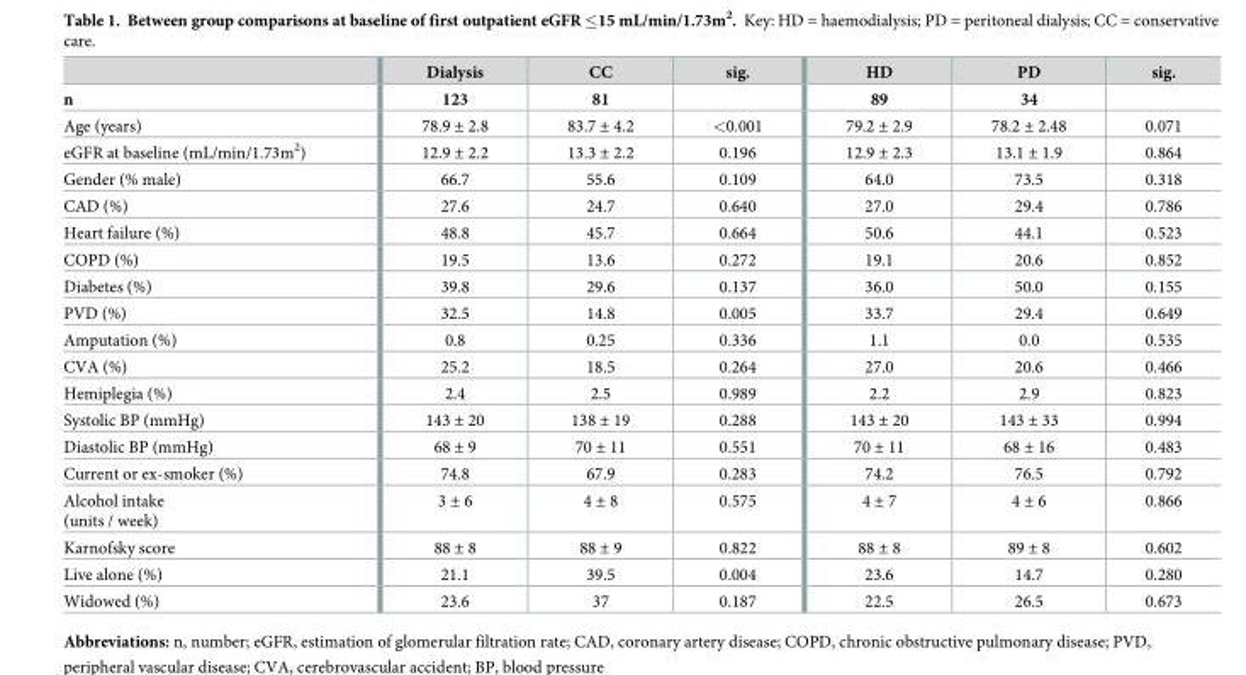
<table><thead><tr><td rowspan="2">n</td><td rowspan="2">Dialysis 123</td><td rowspan="2">CC 81</td><td rowspan="2">sig.</td><td rowspan="2">HD 89</td><td rowspan="2">PD 34</td><td rowspan="2">sig.</td></tr><tr></tr></thead><tbody><tr><td>Age (years)</td><td>78.9 ± 2.8</td><td>83.7 ± 4.2</td><td>&lt;0.001</td><td>79.2 ± 2.9</td><td>78.2 ± 2.48</td><td>0.071</td></tr><tr><td>eGFR at baseline (mL/min/1.73m<sup>2</sup>)</td><td>12.9 ± 2.2</td><td>13.3 ± 2.2</td><td>0.196</td><td>12.9 ± 2.3</td><td>13.1 ± 1.9</td><td>0.864</td></tr><tr><td>Gender (% male)</td><td>66.7</td><td>55.6</td><td>0.109</td><td>64.0</td><td>73.5</td><td>0.318</td></tr><tr><td>CAD (%)</td><td>27.6</td><td>24.7</td><td>0.640</td><td>27.0</td><td>29.4</td><td>0.786</td></tr><tr><td>Heart failure (%)</td><td>48.8</td><td>45.7</td><td>0.664</td><td>50.6</td><td>44.1</td><td>0.523</td></tr><tr><td>COPD (%)</td><td>19.5</td><td>13.6</td><td>0.272</td><td>19.1</td><td>20.6</td><td>0.852</td></tr><tr><td>Diabetes (%)</td><td>39.8</td><td>29.6</td><td>0.137</td><td>36.0</td><td>50.0</td><td>0.155</td></tr><tr><td>PVD (%)</td><td>32.5</td><td>14.8</td><td>0.005</td><td>33.7</td><td>29.4</td><td>0.649</td></tr><tr><td>Amputation (%)</td><td>0.8</td><td>0.25</td><td>0.336</td><td>1.1</td><td>0.0</td><td>0.535</td></tr><tr><td>CVA (%)</td><td>25.2</td><td>18.5</td><td>0.264</td><td>27.0</td><td>20.6</td><td>0.466</td></tr><tr><td>Hemiplegia (%)</td><td>2.4</td><td>2.5</td><td>0.989</td><td>2.2</td><td>2.9</td><td>0.823</td></tr><tr><td>Systolic BP (mmHg)</td><td>143 ± 20</td><td>138 ± 19</td><td>0.288</td><td>143 ± 20</td><td>143 ± 33</td><td>0.994</td></tr><tr><td>Diastolic BP (mmHg)</td><td>68 ± 9</td><td>70 ± 11</td><td>0.551</td><td>70 ± 11</td><td>68 ± 16</td><td>0.483</td></tr><tr><td>Current or ex-smoker (%)</td><td>74.8</td><td>67.9</td><td>0.283</td><td>74.2</td><td>76.5</td><td>0.792</td></tr><tr><td>Alcohol intake (units / week)</td><td>3 ± 6</td><td>4 ± 8</td><td>0.575</td><td>4 ± 7</td><td>4 ± 6</td><td>0.866</td></tr><tr><td>Karnofsky score</td><td>88 ± 8</td><td>88 ± 9</td><td>0.822</td><td>88 ± 8</td><td>89 ± 8</td><td>0.602</td></tr><tr><td>Live alone (%)</td><td>21.1</td><td>39.5</td><td>0.004</td><td>23.6</td><td>14.7</td><td>0.280</td></tr><tr><td>Widowed (%)</td><td>23.6</td><td>37</td><td>0.187</td><td>22.5</td><td>26.5</td><td>0.673</td></tr></tbody></table>